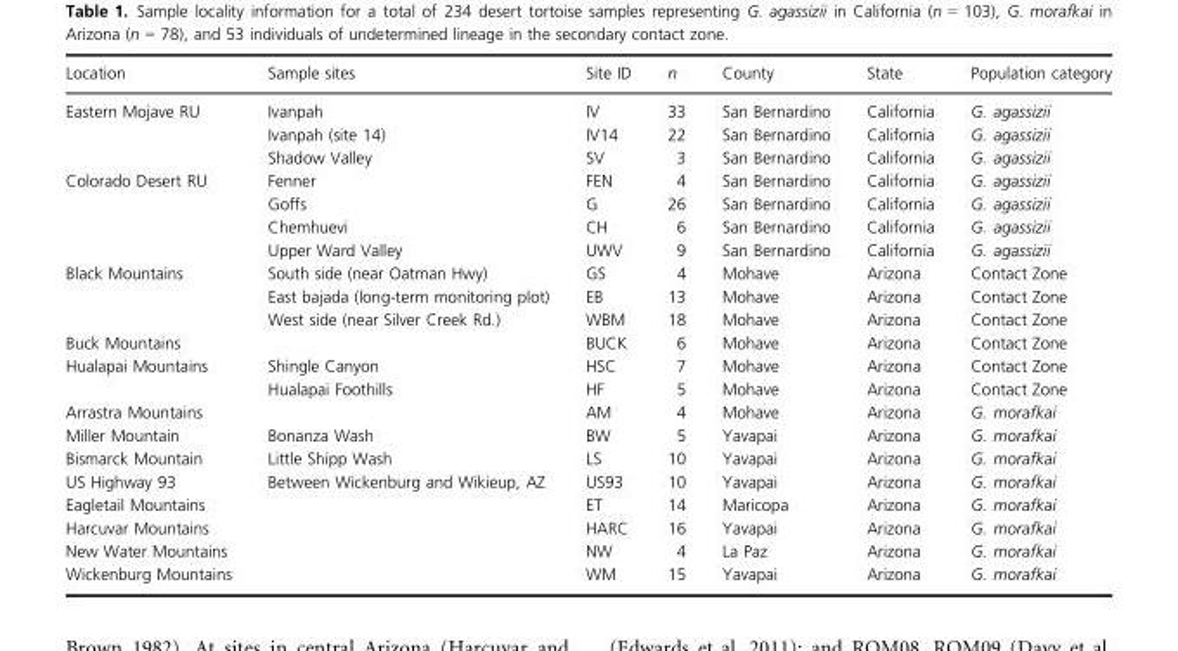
<table><thead><tr><td>Location</td><td>Sample sites</td><td>Site ID</td><td>n</td><td>County</td><td>State</td><td>Population category</td></tr></thead><tbody><tr><td rowspan="3">Eastern Mojave RU</td><td>Ivanpah</td><td>IV</td><td>33</td><td>San Bernardino</td><td>California</td><td>G. agassizii</td></tr><tr><td>Ivanpah (site 14)</td><td>IV14</td><td>22</td><td>San Bernardino</td><td>California</td><td>G. agassizii</td></tr><tr><td>Shadow Valley</td><td>SV</td><td>3</td><td>San Bernardino</td><td>California</td><td>G. agassizii</td></tr><tr><td rowspan="4">Colorado Desert RU</td><td>Fenner</td><td>FEN</td><td>4</td><td>San Bernardino</td><td>California</td><td>G. agassizii</td></tr><tr><td>Goffs</td><td>G</td><td>26</td><td>San Bernardino</td><td>California</td><td>G. agassizii</td></tr><tr><td>Chemhuevi</td><td>CH</td><td>6</td><td>San Bernardino</td><td>California</td><td>G. agassizii</td></tr><tr><td>Upper Ward Valley</td><td>UWV</td><td>9</td><td>San Bernardino</td><td>California</td><td>G. agassizii</td></tr><tr><td rowspan="3">Black Mountains</td><td>South side (near Oatman Hwy)</td><td>GS</td><td>4</td><td>Mohave</td><td>Arizona</td><td>Contact Zone</td></tr><tr><td>East bajada (long-term monitoring plot)</td><td>EB</td><td>13</td><td>Mohave</td><td>Arizona</td><td>Contact Zone</td></tr><tr><td>West side (near Silver Creek Rd.)</td><td>WBM</td><td>18</td><td>Mohave</td><td>Arizona</td><td>Contact Zone</td></tr><tr><td>Buck Mountains</td><td></td><td>BUCK</td><td>6</td><td>Mohave</td><td>Arizona</td><td>Contact Zone</td></tr><tr><td rowspan="2">Hualapai Mountains</td><td>Shingle Canyon</td><td>HSC</td><td>7</td><td>Mohave</td><td>Arizona</td><td>Contact Zone</td></tr><tr><td>Hualapai Foothills</td><td>HF</td><td>5</td><td>Mohave</td><td>Arizona</td><td>Contact Zone</td></tr><tr><td>Arrastra Mountains</td><td></td><td>AM</td><td>4</td><td>Mohave</td><td>Arizona</td><td>G. morafkai</td></tr><tr><td>Miller Mountain</td><td>Bonanza Wash</td><td>BW</td><td>5</td><td>Yavapai</td><td>Arizona</td><td>G. morafkai</td></tr><tr><td>Bismarck Mountain</td><td>Little Shipp Wash</td><td>LS</td><td>10</td><td>Yavapai</td><td>Arizona</td><td>G. morafkai</td></tr><tr><td>US Highway 93</td><td>Between Wickenburg and Wikieup, AZ</td><td>US93</td><td>10</td><td>Yavapai</td><td>Arizona</td><td>G. morafkai</td></tr><tr><td>Eagletail Mountains</td><td></td><td>ET</td><td>14</td><td>Maricopa</td><td>Arizona</td><td>G. morafkai</td></tr><tr><td>Harcuvar Mountains</td><td></td><td>HARC</td><td>16</td><td>Yavapai</td><td>Arizona</td><td>G. morafkai</td></tr><tr><td>New Water Mountains</td><td></td><td>NW</td><td>4</td><td>La Paz</td><td>Arizona</td><td>G. morafkai</td></tr><tr><td>Wickenburg Mountains</td><td></td><td>WM</td><td>15</td><td>Yavapai</td><td>Arizona</td><td>G. morafkai</td></tr></tbody></table>